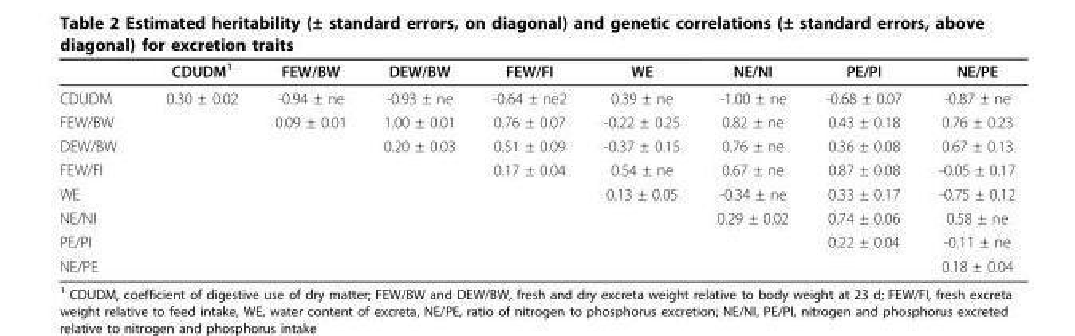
<table><thead><tr><td></td><td>CDUDM<sup>1</sup></td><td>FEW/BW</td><td>DEW/BW</td><td>FEW/FI</td><td>WE</td><td>NE/NI</td><td>PE/PI</td><td>NE/PE</td></tr></thead><tbody><tr><td>CDUDM</td><td>0.30 ± 0.02</td><td>-0.94 ± ne</td><td>-0.93 ± ne</td><td>-0.64 ± ne2</td><td>0.39 ± ne</td><td>-1.00 ± ne</td><td>-0.68 ± 0.07</td><td>-0.87 ± ne</td></tr><tr><td>FEW/BW</td><td></td><td>0.09 ± 0.01</td><td>1.00 ± 0.01</td><td>0.76 ± 0.07</td><td>-0.22 ± 0.25</td><td>0.82 ± ne</td><td>0.43 ± 0.18</td><td>0.76 ± 0.23</td></tr><tr><td>DEW/BW</td><td></td><td></td><td>0.20 ± 0.03</td><td>0.51 ± 0.09</td><td>-0.37 ± 0.15</td><td>0.76 ± ne</td><td>0.36 ± 0.08</td><td>0.67 ± 0.13</td></tr><tr><td>FEW/FI</td><td></td><td></td><td></td><td>0.17 ± 0.04</td><td>0.54 ± ne</td><td>0.67 ± ne</td><td>0.87 ± 0.08</td><td>-0.05 ± 0.17</td></tr><tr><td>WE</td><td></td><td></td><td></td><td></td><td>0.13 ± 0.05</td><td>-0.34 ± ne</td><td>0.33 ± 0.17</td><td>-0.75 ± 0.12</td></tr><tr><td>NE/NI</td><td></td><td></td><td></td><td></td><td></td><td>0.29 ± 0.02</td><td>0.74 ± 0.06</td><td>0.58 ± ne</td></tr><tr><td>PE/PI</td><td></td><td></td><td></td><td></td><td></td><td></td><td>0.22 ± 0.04</td><td>-0.11 ± ne</td></tr><tr><td>NE/PE</td><td></td><td></td><td></td><td></td><td></td><td></td><td></td><td>0.18 ± 0.04</td></tr></tbody></table>